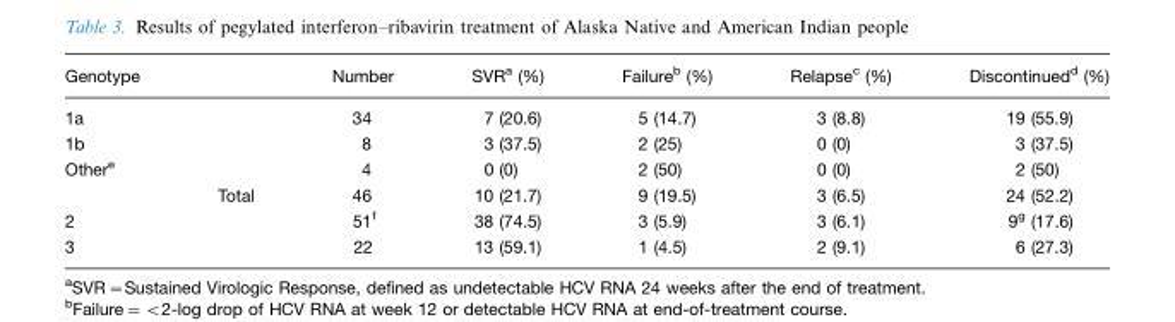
<table><thead><tr><td>Genotype</td><td></td><td>Number</td><td>SVR<sup>a</sup> (%)</td><td>Failure<sup>b</sup> (%)</td><td>Relapse<sup>c</sup> (%)</td><td>Discontinued<sup>d</sup> (%)</td></tr></thead><tbody><tr><td>1a</td><td></td><td>34</td><td>7 (20.6)</td><td>5 (14.7)</td><td>3 (8.8)</td><td>19 (55.9)</td></tr><tr><td>1b</td><td></td><td>8</td><td>3 (37.5)</td><td>2 (25)</td><td>0 (0)</td><td>3 (37.5)</td></tr><tr><td rowspan="2">Other<sup>e</sup></td><td></td><td>4</td><td>0 (0)</td><td>2 (50)</td><td>0 (0)</td><td>2 (50)</td></tr><tr><td>Total</td><td>46</td><td>10 (21.7)</td><td>9 (19.5)</td><td>3 (6.5)</td><td>24 (52.2)</td></tr><tr><td>2</td><td></td><td>51<sup>f</sup></td><td>38 (74.5)</td><td>3 (5.9)</td><td>3 (6.1)</td><td>9<sup>g</sup> (17.6)</td></tr><tr><td>3</td><td></td><td>22</td><td>13 (59.1)</td><td>1 (4.5)</td><td>2 (9.1)</td><td>6 (27.3)</td></tr></tbody></table>